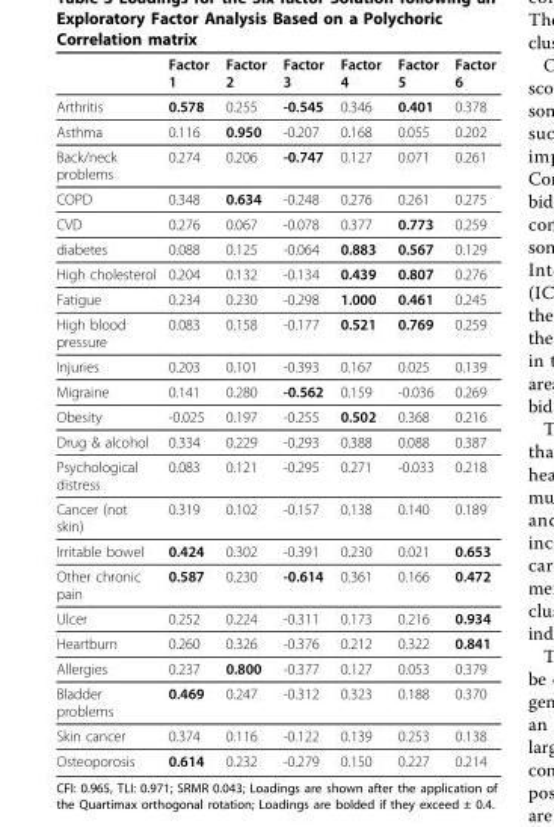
<table><thead><tr><td></td><td>Factor 1</td><td>Factor 2</td><td>Factor 3</td><td>Factor 4</td><td>Factor 5</td><td>Factor 6</td></tr></thead><tbody><tr><td>Arthritis</td><td>0.578</td><td>0.255</td><td>-0.545</td><td>0.346</td><td>0.401</td><td>0.378</td></tr><tr><td>Asthma</td><td>0.116</td><td>0.950</td><td>-0.207</td><td>0.168</td><td>0.055</td><td>0.202</td></tr><tr><td>Back/neck problems</td><td>0.274</td><td>0.206</td><td>-0.747</td><td>0.127</td><td>0.071</td><td>0.261</td></tr><tr><td>COPD</td><td>0.348</td><td>0.634</td><td>-0.248</td><td>0.276</td><td>0.261</td><td>0.275</td></tr><tr><td>CVD</td><td>0.276</td><td>0.067</td><td>-0.078</td><td>0.377</td><td>0.773</td><td>0.259</td></tr><tr><td>diabetes</td><td>0.088</td><td>0.125</td><td>-0.064</td><td>0.883</td><td>0.567</td><td>0.129</td></tr><tr><td>High cholesterol</td><td>0.204</td><td>0.132</td><td>-0.134</td><td>0.439</td><td>0.807</td><td>0.276</td></tr><tr><td>Fatigue</td><td>0.234</td><td>0.230</td><td>-0.298</td><td>1.000</td><td>0.461</td><td>0.245</td></tr><tr><td>High blood pressure</td><td>0.083</td><td>0.158</td><td>-0.177</td><td>0.521</td><td>0.769</td><td>0.259</td></tr><tr><td>Injuries</td><td>0.203</td><td>0.101</td><td>-0.393</td><td>0.167</td><td>0.025</td><td>0.139</td></tr><tr><td>Migraine</td><td>0.141</td><td>0.280</td><td>-0.562</td><td>0.159</td><td>-0.036</td><td>0.269</td></tr><tr><td>Obesity</td><td>-0.025</td><td>0.197</td><td>-0.255</td><td>0.502</td><td>0.368</td><td>0.216</td></tr><tr><td>Drug &amp; alcohol</td><td>0.334</td><td>0.229</td><td>-0.293</td><td>0.388</td><td>0.088</td><td>0.387</td></tr><tr><td>Psychological distress</td><td>0.083</td><td>0.121</td><td>-0.295</td><td>0.271</td><td>-0.033</td><td>0.218</td></tr><tr><td>Cancer (not skin)</td><td>0.319</td><td>0.102</td><td>-0.157</td><td>0.138</td><td>0.140</td><td>0.189</td></tr><tr><td>Irritable bowel</td><td>0.424</td><td>0.302</td><td>-0.391</td><td>0.230</td><td>0.021</td><td>0.653</td></tr><tr><td>Other chronic pain</td><td>0.587</td><td>0.230</td><td>-0.614</td><td>0.361</td><td>0.166</td><td>0.472</td></tr><tr><td>Ulcer</td><td>0.252</td><td>0.224</td><td>-0.311</td><td>0.173</td><td>0.216</td><td>0.934</td></tr><tr><td>Heartburn</td><td>0.260</td><td>0.326</td><td>-0.376</td><td>0.212</td><td>0.322</td><td>0.841</td></tr><tr><td>Allergies</td><td>0.237</td><td>0.800</td><td>-0.377</td><td>0.127</td><td>0.053</td><td>0.379</td></tr><tr><td>Bladder problems</td><td>0.469</td><td>0.247</td><td>-0.312</td><td>0.323</td><td>0.188</td><td>0.370</td></tr><tr><td>Skin cancer</td><td>0.374</td><td>0.116</td><td>-0.122</td><td>0.139</td><td>0.253</td><td>0.138</td></tr><tr><td>Osteoporosis</td><td>0.614</td><td>0.232</td><td>-0.279</td><td>0.150</td><td>0.227</td><td>0.214</td></tr></tbody></table>